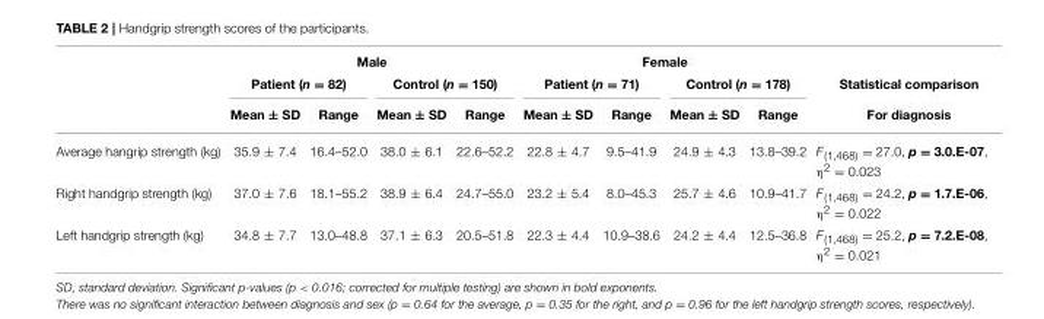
<table><thead><tr><td rowspan="3"></td><td colspan="4">Male</td><td colspan="4">Female</td><td rowspan="3">Statistical comparison For diagnosis</td></tr><tr><td colspan="2">Patient (n = 82)</td><td colspan="2">Control (n = 150)</td><td colspan="2">Patient (n = 71)</td><td colspan="2">Control (n = 178)</td></tr><tr><td>Mean ± SD</td><td>Range</td><td>Mean ± SD</td><td>Range</td><td>Mean ± SD</td><td>Range</td><td>Mean ± SD</td><td>Range</td></tr></thead><tbody><tr><td>Average hangrip strength (kg)</td><td>35.9 ± 7.4</td><td>16.4–52.0</td><td>38.0 ± 6.1</td><td>22.6–52.2</td><td>22.8 ± 4.7</td><td>9.5–41.9</td><td>24.9 ± 4.3</td><td>13.8–39.2</td><td>F<sub>(1,468)</sub> = 27.0, p = 3.0.E-07, η<sup>2</sup> = 0.023</td></tr><tr><td>Right handgrip strength (kg)</td><td>37.0 ± 7.6</td><td>18.1–55.2</td><td>38.9 ± 6.4</td><td>24.7–55.0</td><td>23.2 ± 5.4</td><td>8.0–45.3</td><td>25.7 ± 4.6</td><td>10.9–41.7</td><td>F<sub>(1,468)</sub> = 24.2, p = 1.7.E-06, η<sup>2</sup> = 0.022</td></tr><tr><td>Left handgrip strength (kg)</td><td>34.8 ± 7.7</td><td>13.0–48.8</td><td>37.1 ± 6.3</td><td>20.5–51.8</td><td>22.3 ± 4.4</td><td>10.9–38.6</td><td>24.2 ± 4.4</td><td>12.5–36.8</td><td>F<sub>(1,468)</sub> = 25.2, p = 7.2.E-08, η<sup>2</sup> = 0.021</td></tr></tbody></table>